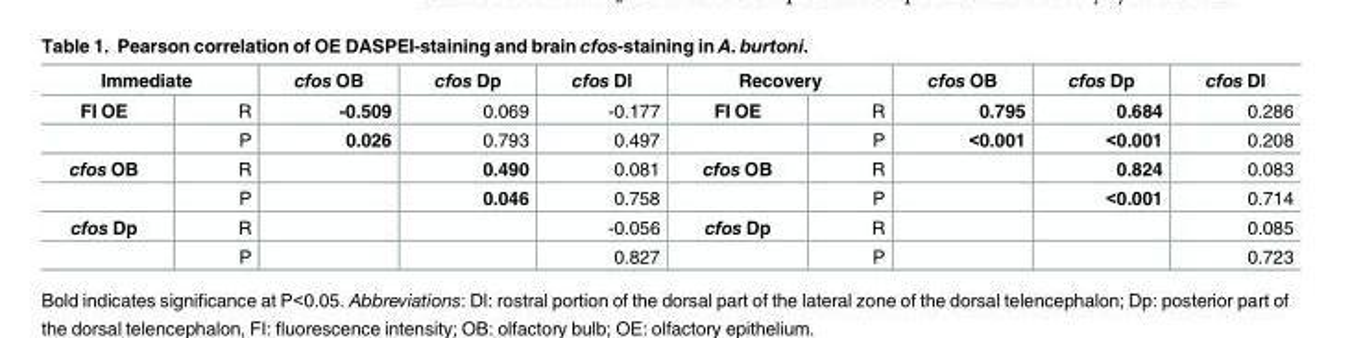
<table><thead><tr><td colspan="2">Immediate</td><td rowspan="2">cfos OB -0.509</td><td rowspan="2">cfos Dp 0.069</td><td rowspan="2">cfos Dl -0.177</td><td colspan="2">Recovery</td><td rowspan="2">cfos OB 0.795</td><td rowspan="2">cfos Dp 0.684</td><td rowspan="2">cfos Dl 0.286</td></tr><tr><td>FI OE</td><td>R</td><td>FI OE</td><td>R</td></tr></thead><tbody><tr><td></td><td>P</td><td>0.026</td><td>0.793</td><td>0.497</td><td></td><td>P</td><td>&lt;0.001</td><td>&lt;0.001</td><td>0.208</td></tr><tr><td rowspan="2">cfos OB</td><td>R</td><td></td><td>0.490</td><td>0.081</td><td>cfos OB</td><td>R</td><td></td><td>0.824</td><td>0.083</td></tr><tr><td>P</td><td></td><td>0.046</td><td>0.758</td><td></td><td>P</td><td></td><td>&lt;0.001</td><td>0.714</td></tr><tr><td rowspan="2">cfos Dp</td><td>R</td><td></td><td></td><td>-0.056</td><td>cfos Dp</td><td>R</td><td></td><td></td><td>0.085</td></tr><tr><td>P</td><td></td><td></td><td>0.827</td><td></td><td>P</td><td></td><td></td><td>0.723</td></tr></tbody></table>